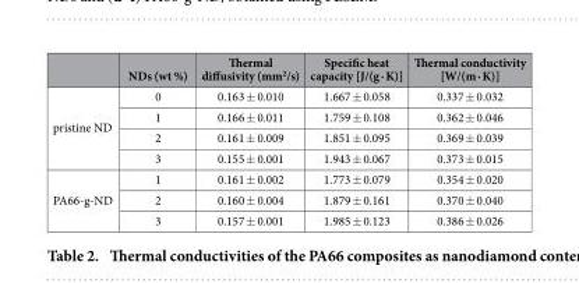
<table><thead><tr><td></td><td>NDs (wt %)</td><td>Thermal diffusivity (mm<sup>2</sup>/s)</td><td>Specific heat capacity [J/(g · K)]</td><td>Thermal conductivity [W/(m · K)]</td></tr></thead><tbody><tr><td rowspan="4">pristine ND</td><td>0</td><td>0.163 ± 0.010</td><td>1.667 ± 0.058</td><td>0.337 ± 0.032</td></tr><tr><td>1</td><td>0.166 ± 0.011</td><td>1.759 ± 0.108</td><td>0.362 ± 0.046</td></tr><tr><td>2</td><td>0.161 ± 0.009</td><td>1.851 ± 0.095</td><td>0.369 ± 0.039</td></tr><tr><td>3</td><td>0.155 ± 0.001</td><td>1.943 ± 0.067</td><td>0.373 ± 0.015</td></tr><tr><td rowspan="3">PA66-g-ND</td><td>1</td><td>0.161 ± 0.002</td><td>1.773 ± 0.079</td><td>0.354 ± 0.020</td></tr><tr><td>2</td><td>0.160 ± 0.004</td><td>1.879 ± 0.161</td><td>0.370 ± 0.040</td></tr><tr><td>3</td><td>0.157 ± 0.001</td><td>1.985 ± 0.123</td><td>0.386 ± 0.026</td></tr></tbody></table>